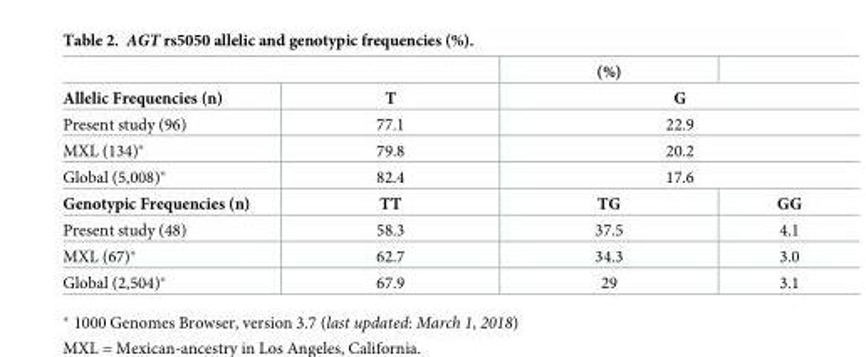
<table><thead><tr><td></td><td></td><td>(%)</td><td></td></tr></thead><tbody><tr><td>Allelic Frequencies (n)</td><td>T</td><td colspan="2">G</td></tr><tr><td>Present study (96)</td><td>77.1</td><td colspan="2">22.9</td></tr><tr><td>MXL (134)*</td><td>79.8</td><td colspan="2">20.2</td></tr><tr><td>Global (5,008)*</td><td>82.4</td><td colspan="2">17.6</td></tr><tr><td>Genotypic Frequencies (n)</td><td>TT</td><td>TG</td><td>GG</td></tr><tr><td>Present study (48)</td><td>58.3</td><td>37.5</td><td>4.1</td></tr><tr><td>MXL (67)*</td><td>62.7</td><td>34.3</td><td>3.0</td></tr><tr><td>Global (2,504)*</td><td>67.9</td><td>29</td><td>3.1</td></tr></tbody></table>